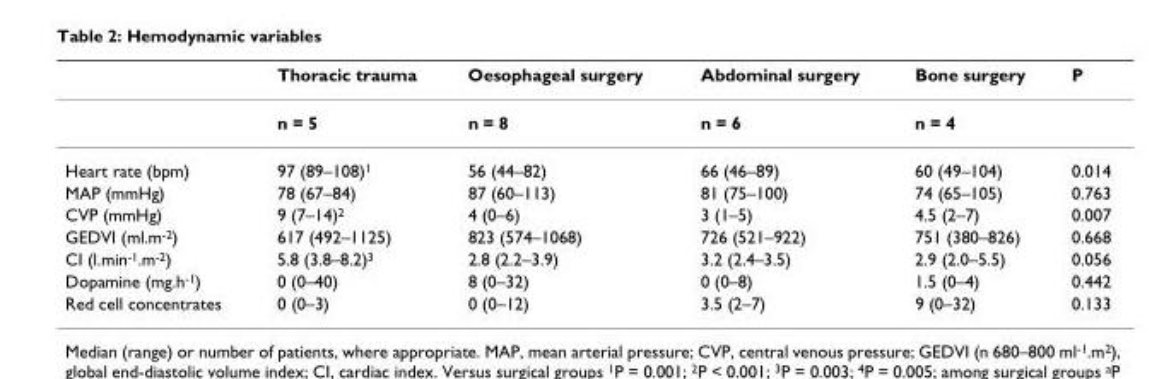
<table><thead><tr><td></td><td>Thoracic trauma</td><td>Oesophageal surgery</td><td>Abdominal surgery</td><td>Bone surgery</td><td>P</td></tr></thead><tbody><tr><td></td><td>n = 5</td><td>n = 8</td><td>n = 6</td><td>n = 4</td><td></td></tr><tr><td>Heart rate (bpm)</td><td>97 (89–108)<sup>1</sup></td><td>56 (44–82)</td><td>66 (46–89)</td><td>60 (49–104)</td><td>0.014</td></tr><tr><td>MAP (mmHg)</td><td>78 (67–84)</td><td>87 (60–113)</td><td>81 (75–100)</td><td>74 (65–105)</td><td>0.763</td></tr><tr><td>CVP (mmHg)</td><td>9 (7–14)<sup>2</sup></td><td>4 (0–6)</td><td>3 (1–5)</td><td>4.5 (2–7)</td><td>0.007</td></tr><tr><td>GEDVI (ml.m<sup>-2</sup>)</td><td>617 (492–1125)</td><td>823 (574–1068)</td><td>726 (521–922)</td><td>751 (380–826)</td><td>0.668</td></tr><tr><td>CI (l.min<sup>-1</sup>.m<sup>-2</sup>)</td><td>5.8 (3.8–8.2)<sup>3</sup></td><td>2.8 (2.2–3.9)</td><td>3.2 (2.4–3.5)</td><td>2.9 (2.0–5.5)</td><td>0.056</td></tr><tr><td>Dopamine (mg.h<sup>-1</sup>)</td><td>0 (0–40)</td><td>8 (0–32)</td><td>0 (0–8)</td><td>1.5 (0–4)</td><td>0.442</td></tr><tr><td>Red cell concentrates</td><td>0 (0–3)</td><td>0 (0–12)</td><td>3.5 (2–7)</td><td>9 (0–32)</td><td>0.133</td></tr></tbody></table>